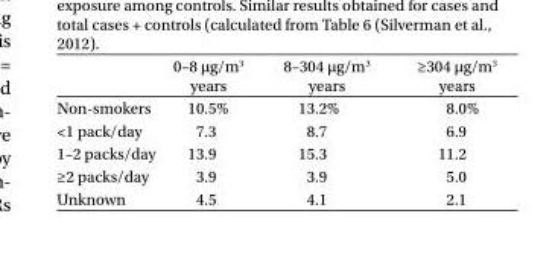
<table><thead><tr><td></td><td>0–8 µg/m<sup>3</sup> years</td><td>8–304 µg/m<sup>3</sup> years</td><td>≥304 µg/m<sup>3</sup> years</td></tr></thead><tbody><tr><td>Non-smokers</td><td>10.5%</td><td>13.2%</td><td>8.0%</td></tr><tr><td>&lt;1 pack/day</td><td>7.3</td><td>8.7</td><td>6.9</td></tr><tr><td>1–2 packs/day</td><td>13.9</td><td>15.3</td><td>11.2</td></tr><tr><td>≥2 packs/day</td><td>3.9</td><td>3.9</td><td>5.0</td></tr><tr><td>Unknown</td><td>4.5</td><td>4.1</td><td>2.1</td></tr></tbody></table>